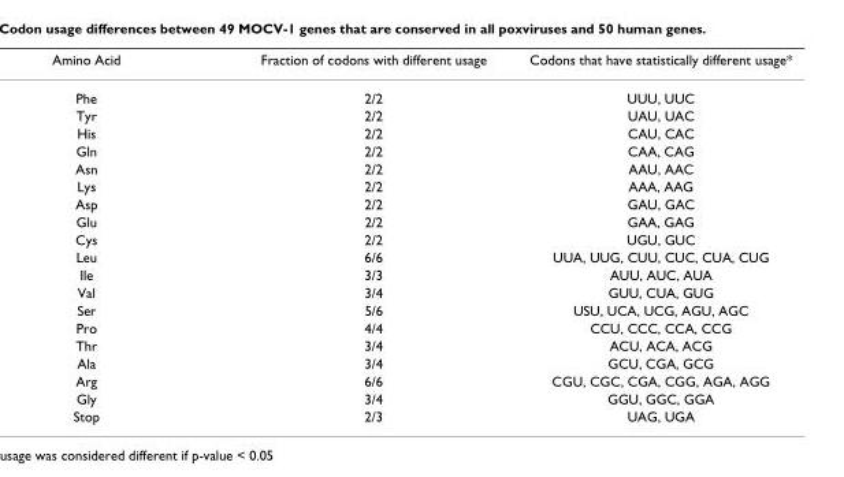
<table><thead><tr><td>Amino Acid</td><td>Fraction of codons with different usage</td><td>Codons that have statistically different usage*</td></tr></thead><tbody><tr><td>Phe</td><td>2/2</td><td>UUU, UUC</td></tr><tr><td>Tyr</td><td>2/2</td><td>UAU, UAC</td></tr><tr><td>His</td><td>2/2</td><td>CAU, CAC</td></tr><tr><td>Gln</td><td>2/2</td><td>CAA, CAG</td></tr><tr><td>Asn</td><td>2/2</td><td>AAU, AAC</td></tr><tr><td>Lys</td><td>2/2</td><td>AAA, AAG</td></tr><tr><td>Asp</td><td>2/2</td><td>GAU, GAC</td></tr><tr><td>Glu</td><td>2/2</td><td>GAA, GAG</td></tr><tr><td>Cys</td><td>2/2</td><td>UGU, GUC</td></tr><tr><td>Leu</td><td>6/6</td><td>UUA, UUG, CUU, CUC, CUA, CUG</td></tr><tr><td>Ile</td><td>3/3</td><td>AUU, AUC, AUA</td></tr><tr><td>Val</td><td>3/4</td><td>GUU, CUA, GUG</td></tr><tr><td>Ser</td><td>5/6</td><td>USU, UCA, UCG, AGU, AGC</td></tr><tr><td>Pro</td><td>4/4</td><td>CCU, CCC, CCA, CCG</td></tr><tr><td>Thr</td><td>3/4</td><td>ACU, ACA, ACG</td></tr><tr><td>Ala</td><td>3/4</td><td>GCU, CGA, GCG</td></tr><tr><td>Arg</td><td>6/6</td><td>CGU, CGC, CGA, CGG, AGA, AGG</td></tr><tr><td>Gly</td><td>3/4</td><td>GGU, GGC, GGA</td></tr><tr><td>Stop</td><td>2/3</td><td>UAG, UGA</td></tr></tbody></table>